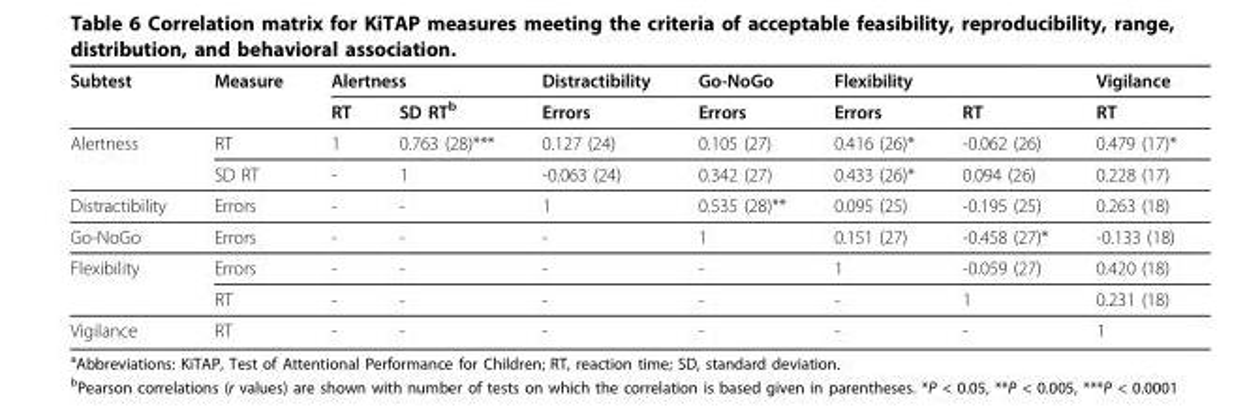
<table><thead><tr><td rowspan="2">Subtest</td><td rowspan="2">Measure</td><td colspan="2">Alertness</td><td rowspan="2">Distractibility Errors</td><td rowspan="2">Go-NoGo Errors</td><td colspan="2">Flexibility</td><td rowspan="2">Vigilance RT</td></tr><tr><td>RT</td><td>SD RT<sup>b</sup></td><td>Errors</td><td>RT</td></tr></thead><tbody><tr><td rowspan="2">Alertness</td><td>RT</td><td>1</td><td>0.763 (28)***</td><td>0.127 (24)</td><td>0.105 (27)</td><td>0.416 (26)*</td><td>-0.062 (26)</td><td>0.479 (17)*</td></tr><tr><td>SD RT</td><td>-</td><td>1</td><td>-0.063 (24)</td><td>0.342 (27)</td><td>0.433 (26)*</td><td>0.094 (26)</td><td>0.228 (17)</td></tr><tr><td>Distractibility</td><td>Errors</td><td>-</td><td>-</td><td>1</td><td>0.535 (28)**</td><td>0.095 (25)</td><td>-0.195 (25)</td><td>0.263 (18)</td></tr><tr><td>Go-NoGo</td><td>Errors</td><td>-</td><td>-</td><td>-</td><td>1</td><td>0.151 (27)</td><td>-0.458 (27)*</td><td>-0.133 (18)</td></tr><tr><td rowspan="2">Flexibility</td><td>Errors</td><td>-</td><td>-</td><td>-</td><td>-</td><td>1</td><td>-0.059 (27)</td><td>0.420 (18)</td></tr><tr><td>RT</td><td>-</td><td>-</td><td>-</td><td>-</td><td>-</td><td>1</td><td>0.231 (18)</td></tr><tr><td>Vigilance</td><td>RT</td><td>-</td><td>-</td><td>-</td><td>-</td><td>-</td><td>-</td><td>1</td></tr></tbody></table>